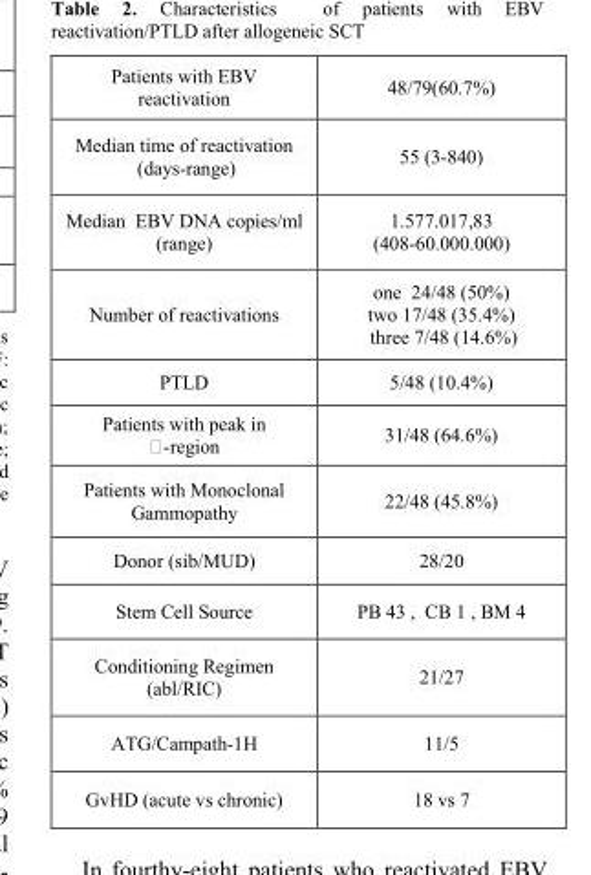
<table><tbody><tr><td>Patients with EBV reactivation</td><td>48/79(60.7%)</td></tr><tr><td>Median time of reactivation (days-range)</td><td>55 (3-840)</td></tr><tr><td>Median EBV DNA copies/ml (range)</td><td>1.577.017,83 (408-60.000.000)</td></tr><tr><td>Number of reactivations</td><td>one 24/48 (50%) two 17/48 (35.4%) three 7/48 (14.6%)</td></tr><tr><td>PTLD</td><td>5/48 (10.4%)</td></tr><tr><td>Patients with peak in -region</td><td>31/48 (64.6%)</td></tr><tr><td>Patients with Monoclonal Gammopathy</td><td>22/48 (45.8%)</td></tr><tr><td>Donor (sib/MUD)</td><td>28/20</td></tr><tr><td>Stem Cell Source</td><td>PB 43 , CB 1 , BM 4</td></tr><tr><td>Conditioning Regimen (abl/RIC)</td><td>21/27</td></tr><tr><td>ATG/Campath-1H</td><td>11/5</td></tr><tr><td>GvHD (acute vs chronic)</td><td>18 vs 7</td></tr></tbody></table>